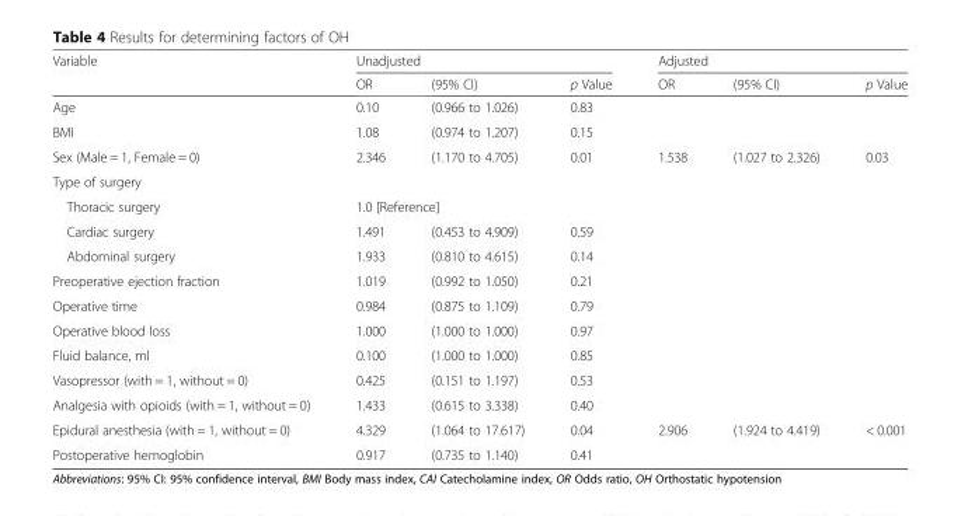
<table><thead><tr><td rowspan="2">Variable</td><td colspan="3">Unadjusted</td><td colspan="3">Adjusted</td></tr><tr><td>OR</td><td>(95% CI)</td><td>p Value</td><td>OR</td><td>(95% CI)</td><td>p Value</td></tr></thead><tbody><tr><td>Age</td><td>0.10</td><td>(0.966 to 1.026)</td><td>0.83</td><td></td><td></td><td></td></tr><tr><td>BMI</td><td>1.08</td><td>(0.974 to 1.207)</td><td>0.15</td><td></td><td></td><td></td></tr><tr><td>Sex (Male = 1, Female = 0)</td><td>2.346</td><td>(1.170 to 4.705)</td><td>0.01</td><td>1.538</td><td>(1.027 to 2.326)</td><td>0.03</td></tr><tr><td colspan="7">Type of surgery</td></tr><tr><td>Thoracic surgery</td><td colspan="6">1.0 [Reference]</td></tr><tr><td>Cardiac surgery</td><td>1.491</td><td>(0.453 to 4.909)</td><td>0.59</td><td></td><td></td><td></td></tr><tr><td>Abdominal surgery</td><td>1.933</td><td>(0.810 to 4.615)</td><td>0.14</td><td></td><td></td><td></td></tr><tr><td>Preoperative ejection fraction</td><td>1.019</td><td>(0.992 to 1.050)</td><td>0.21</td><td></td><td></td><td></td></tr><tr><td>Operative time</td><td>0.984</td><td>(0.875 to 1.109)</td><td>0.79</td><td></td><td></td><td></td></tr><tr><td>Operative blood loss</td><td>1.000</td><td>(1.000 to 1.000)</td><td>0.97</td><td></td><td></td><td></td></tr><tr><td>Fluid balance, ml</td><td>0.100</td><td>(1.000 to 1.000)</td><td>0.85</td><td></td><td></td><td></td></tr><tr><td>Vasopressor (with = 1, without = 0)</td><td>0.425</td><td>(0.151 to 1.197)</td><td>0.53</td><td></td><td></td><td></td></tr><tr><td>Analgesia with opioids (with = 1, without = 0)</td><td>1.433</td><td>(0.615 to 3.338)</td><td>0.40</td><td></td><td></td><td></td></tr><tr><td>Epidural anesthesia (with = 1, without = 0)</td><td>4.329</td><td>(1.064 to 17.617)</td><td>0.04</td><td>2.906</td><td>(1.924 to 4.419)</td><td>&lt; 0.001</td></tr><tr><td>Postoperative hemoglobin</td><td>0.917</td><td>(0.735 to 1.140)</td><td>0.41</td><td></td><td></td><td></td></tr></tbody></table>